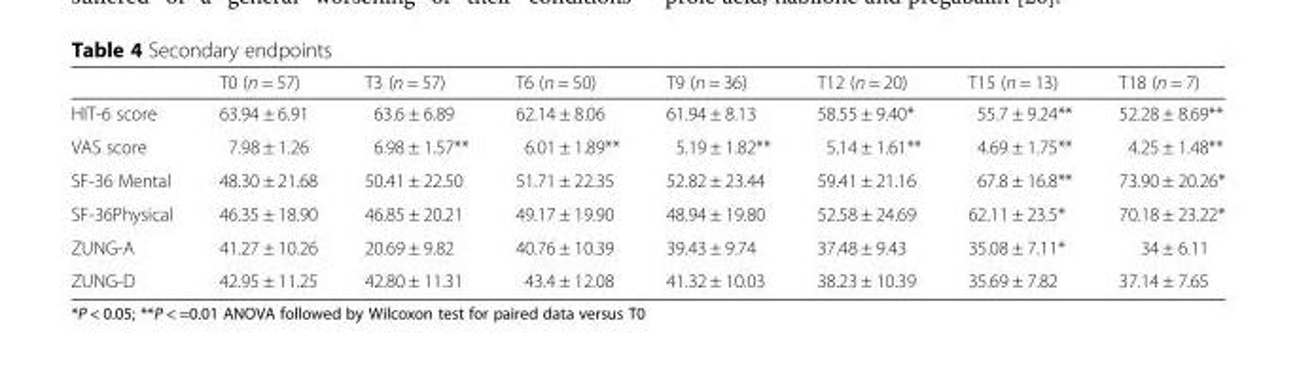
<table><thead><tr><td></td><td>T0 (n = 57)</td><td>T3 (n = 57)</td><td>T6 (n = 50)</td><td>T9 (n = 36)</td><td>T12 (n = 20)</td><td>T15 (n = 13)</td><td>T18 (n = 7)</td></tr></thead><tbody><tr><td>HIT-6 score</td><td>63.94 ± 6.91</td><td>63.6 ± 6.89</td><td>62.14 ± 8.06</td><td>61.94 ± 8.13</td><td>58.55 ± 9.40*</td><td>55.7 ± 9.24**</td><td>52.28 ± 8.69**</td></tr><tr><td>VAS score</td><td>7.98 ± 1.26</td><td>6.98 ± 1.57**</td><td>6.01 ± 1.89**</td><td>5.19 ± 1.82**</td><td>5.14 ± 1.61**</td><td>4.69 ± 1.75**</td><td>4.25 ± 1.48**</td></tr><tr><td>SF-36 Mental</td><td>48.30 ± 21.68</td><td>50.41 ± 22.50</td><td>51.71 ± 22.35</td><td>52.82 ± 23.44</td><td>59.41 ± 21.16</td><td>67.8 ± 16.8**</td><td>73.90 ± 20.26*</td></tr><tr><td>SF-36Physical</td><td>46.35 ± 18.90</td><td>46.85 ± 20.21</td><td>49.17 ± 19.90</td><td>48.94 ± 19.80</td><td>52.58 ± 24.69</td><td>62.11 ± 23.5*</td><td>70.18 ± 23.22*</td></tr><tr><td>ZUNG-A</td><td>41.27 ± 10.26</td><td>20.69 ± 9.82</td><td>40.76 ± 10.39</td><td>39.43 ± 9.74</td><td>37.48 ± 9.43</td><td>35.08 ± 7.11*</td><td>34 ± 6.11</td></tr><tr><td>ZUNG-D</td><td>42.95 ± 11.25</td><td>42.80 ± 11.31</td><td>43.4 ± 12.08</td><td>41.32 ± 10.03</td><td>38.23 ± 10.39</td><td>35.69 ± 7.82</td><td>37.14 ± 7.65</td></tr></tbody></table>